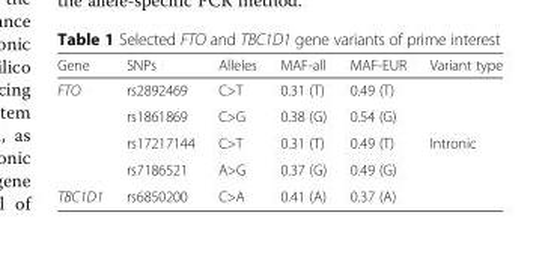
<table><thead><tr><td>Gene</td><td>SNPs</td><td>Alleles</td><td>MAF-all</td><td>MAF-EUR</td><td>Variant type</td></tr></thead><tbody><tr><td rowspan="4">FTO</td><td>rs2892469</td><td>C&gt;T</td><td>0.31 (T)</td><td>0.49 (T)</td><td rowspan="5">Intronic</td></tr><tr><td>rs1861869</td><td>C&gt;G</td><td>0.38 (G)</td><td>0.54 (G)</td></tr><tr><td>rs17217144</td><td>C&gt;T</td><td>0.31 (T)</td><td>0.49 (T)</td></tr><tr><td>rs7186521</td><td>A&gt;G</td><td>0.37 (G)</td><td>0.49 (G)</td></tr><tr><td>TBC1D1</td><td>rs6850200</td><td>C&gt;A</td><td>0.41 (A)</td><td>0.37 (A)</td></tr></tbody></table>